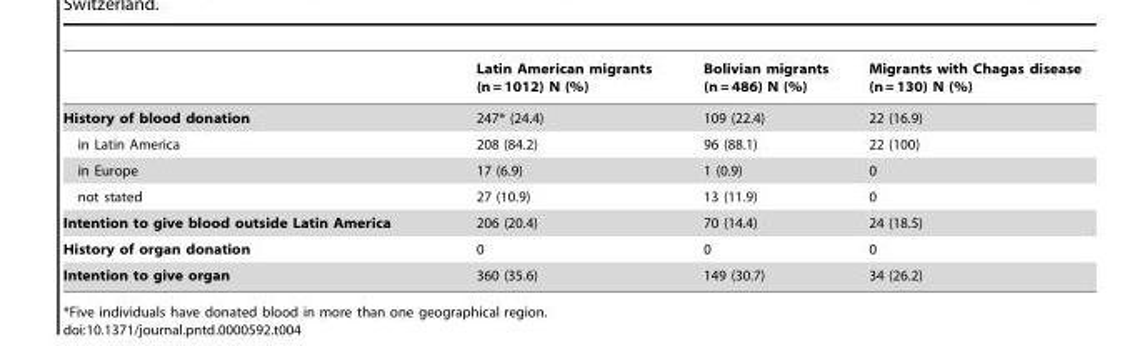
<table><thead><tr><td></td><td>Latin American migrants (n = 1012) N (%)</td><td>Bolivian migrants (n = 486) N (%)</td><td>Migrants with Chagas disease (n = 130) N (%)</td></tr></thead><tbody><tr><td>History of blood donation</td><td>247* (24.4)</td><td>109 (22.4)</td><td>22 (16.9)</td></tr><tr><td>in Latin America</td><td>208 (84.2)</td><td>96 (88.1)</td><td>22 (100)</td></tr><tr><td>in Europe</td><td>17 (6.9)</td><td>1 (0.9)</td><td>0</td></tr><tr><td>not stated</td><td>27 (10.9)</td><td>13 (11.9)</td><td>0</td></tr><tr><td>Intention to give blood outside Latin America</td><td>206 (20.4)</td><td>70 (14.4)</td><td>24 (18.5)</td></tr><tr><td>History of organ donation</td><td>0</td><td>0</td><td>0</td></tr><tr><td>Intention to give organ</td><td>360 (35.6)</td><td>149 (30.7)</td><td>34 (26.2)</td></tr></tbody></table>